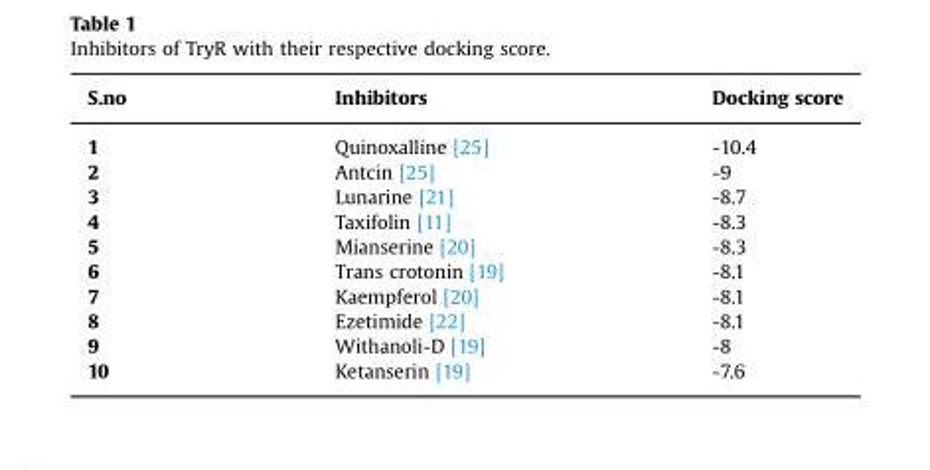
<table><thead><tr><td>S.no</td><td>Inhibitors</td><td>Docking score</td></tr></thead><tbody><tr><td>1</td><td>Quinoxalline [25]</td><td>-10.4</td></tr><tr><td>2</td><td>Antcin [25]</td><td>-9</td></tr><tr><td>3</td><td>Lunarine [21]</td><td>-8.7</td></tr><tr><td>4</td><td>Taxifolin [11]</td><td>-8.3</td></tr><tr><td>5</td><td>Mianserine [20]</td><td>-8.3</td></tr><tr><td>6</td><td>Trans crotonin [19]</td><td>-8.1</td></tr><tr><td>7</td><td>Kaempferol [20]</td><td>-8.1</td></tr><tr><td>8</td><td>Ezetimide [22]</td><td>-8.1</td></tr><tr><td>9</td><td>Withanoli-D [19]</td><td>-8</td></tr><tr><td>10</td><td>Ketanserin [19]</td><td>-7.6</td></tr></tbody></table>